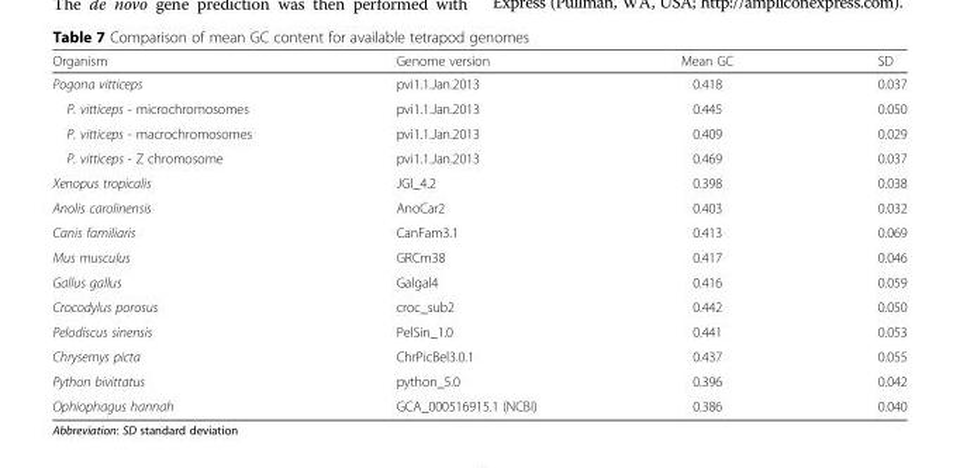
<table><thead><tr><td>Organism</td><td>Genome version</td><td>Mean GC</td><td>SD</td></tr></thead><tbody><tr><td>Pogona vitticeps</td><td>pvi1.1.Jan.2013</td><td>0.418</td><td>0.037</td></tr><tr><td>P. vitticeps - microchromosomes</td><td>pvi1.1.Jan.2013</td><td>0.445</td><td>0.050</td></tr><tr><td>P. vitticeps - macrochromosomes</td><td>pvi1.1.Jan.2013</td><td>0.409</td><td>0.029</td></tr><tr><td>P. vitticeps - Z chromosome</td><td>pvi1.1.Jan.2013</td><td>0.469</td><td>0.037</td></tr><tr><td>Xenopus tropicalis</td><td>JGI_4.2</td><td>0.398</td><td>0.038</td></tr><tr><td>Anolis carolinensis</td><td>AnoCar2</td><td>0.403</td><td>0.032</td></tr><tr><td>Canis familiaris</td><td>CanFam3.1</td><td>0.413</td><td>0.069</td></tr><tr><td>Mus musculus</td><td>GRCm38</td><td>0.417</td><td>0.046</td></tr><tr><td>Gallus gallus</td><td>Galgal4</td><td>0.416</td><td>0.059</td></tr><tr><td>Crocodylus porosus</td><td>croc_sub2</td><td>0.442</td><td>0.050</td></tr><tr><td>Pelodiscus sinensis</td><td>PelSin_1.0</td><td>0.441</td><td>0.053</td></tr><tr><td>Chrysemys picta</td><td>ChrPicBel3.0.1</td><td>0.437</td><td>0.055</td></tr><tr><td>Python bivittatus</td><td>python_5.0</td><td>0.396</td><td>0.042</td></tr><tr><td>Ophiophagus hannah</td><td>GCA_000516915.1 (NCBI)</td><td>0.386</td><td>0.040</td></tr></tbody></table>